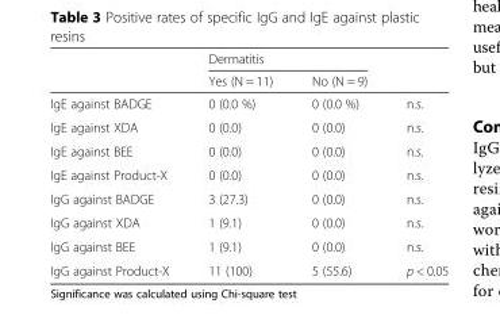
<table><thead><tr><td rowspan="2"></td><td colspan="2">Dermatitis</td><td rowspan="2"></td></tr><tr><td>Yes (N = 11)</td><td>No (N = 9)</td></tr></thead><tbody><tr><td>IgE against BADGE</td><td>0 (0.0 %)</td><td>0 (0.0 %)</td><td>n.s.</td></tr><tr><td>IgE against XDA</td><td>0 (0.0)</td><td>0 (0.0)</td><td>n.s.</td></tr><tr><td>IgE against BEE</td><td>0 (0.0)</td><td>0 (0.0)</td><td>n.s.</td></tr><tr><td>IgE against Product-X</td><td>0 (0.0)</td><td>0 (0.0)</td><td>n.s.</td></tr><tr><td>IgG against BADGE</td><td>3 (27.3)</td><td>0 (0.0)</td><td>n.s.</td></tr><tr><td>IgG against XDA</td><td>1 (9.1)</td><td>0 (0.0)</td><td>n.s.</td></tr><tr><td>IgG against BEE</td><td>1 (9.1)</td><td>0 (0.0)</td><td>n.s.</td></tr><tr><td>IgG against Product-X</td><td>11 (100)</td><td>5 (55.6)</td><td>p &lt; 0.05</td></tr></tbody></table>